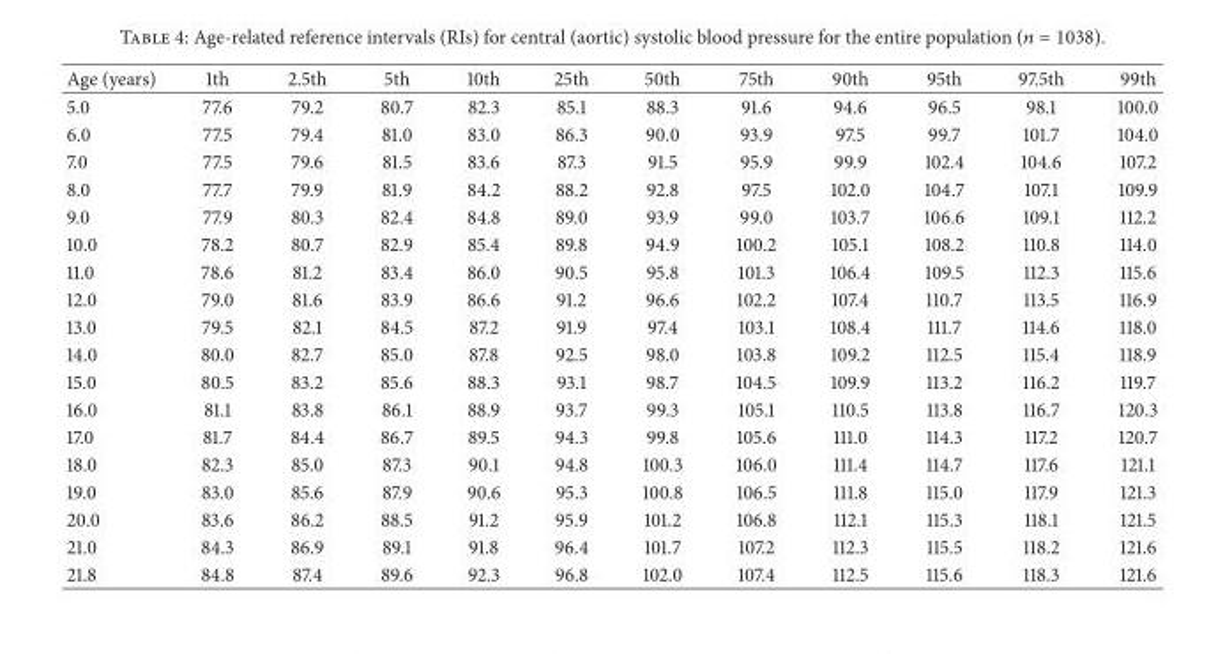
<table><thead><tr><td>Age (years)</td><td>1th</td><td>2.5th</td><td>5th</td><td>10th</td><td>25th</td><td>50th</td><td>75th</td><td>90th</td><td>95th</td><td>97.5th</td><td>99th</td></tr></thead><tbody><tr><td>5.0</td><td>77.6</td><td>79.2</td><td>80.7</td><td>82.3</td><td>85.1</td><td>88.3</td><td>91.6</td><td>94.6</td><td>96.5</td><td>98.1</td><td>100.0</td></tr><tr><td>6.0</td><td>77.5</td><td>79.4</td><td>81.0</td><td>83.0</td><td>86.3</td><td>90.0</td><td>93.9</td><td>97.5</td><td>99.7</td><td>101.7</td><td>104.0</td></tr><tr><td>7.0</td><td>77.5</td><td>79.6</td><td>81.5</td><td>83.6</td><td>87.3</td><td>91.5</td><td>95.9</td><td>99.9</td><td>102.4</td><td>104.6</td><td>107.2</td></tr><tr><td>8.0</td><td>77.7</td><td>79.9</td><td>81.9</td><td>84.2</td><td>88.2</td><td>92.8</td><td>97.5</td><td>102.0</td><td>104.7</td><td>107.1</td><td>109.9</td></tr><tr><td>9.0</td><td>77.9</td><td>80.3</td><td>82.4</td><td>84.8</td><td>89.0</td><td>93.9</td><td>99.0</td><td>103.7</td><td>106.6</td><td>109.1</td><td>112.2</td></tr><tr><td>10.0</td><td>78.2</td><td>80.7</td><td>82.9</td><td>85.4</td><td>89.8</td><td>94.9</td><td>100.2</td><td>105.1</td><td>108.2</td><td>110.8</td><td>114.0</td></tr><tr><td>11.0</td><td>78.6</td><td>81.2</td><td>83.4</td><td>86.0</td><td>90.5</td><td>95.8</td><td>101.3</td><td>106.4</td><td>109.5</td><td>112.3</td><td>115.6</td></tr><tr><td>12.0</td><td>79.0</td><td>81.6</td><td>83.9</td><td>86.6</td><td>91.2</td><td>96.6</td><td>102.2</td><td>107.4</td><td>110.7</td><td>113.5</td><td>116.9</td></tr><tr><td>13.0</td><td>79.5</td><td>82.1</td><td>84.5</td><td>87.2</td><td>91.9</td><td>97.4</td><td>103.1</td><td>108.4</td><td>111.7</td><td>114.6</td><td>118.0</td></tr><tr><td>14.0</td><td>80.0</td><td>82.7</td><td>85.0</td><td>87.8</td><td>92.5</td><td>98.0</td><td>103.8</td><td>109.2</td><td>112.5</td><td>115.4</td><td>118.9</td></tr><tr><td>15.0</td><td>80.5</td><td>83.2</td><td>85.6</td><td>88.3</td><td>93.1</td><td>98.7</td><td>104.5</td><td>109.9</td><td>113.2</td><td>116.2</td><td>119.7</td></tr><tr><td>16.0</td><td>81.1</td><td>83.8</td><td>86.1</td><td>88.9</td><td>93.7</td><td>99.3</td><td>105.1</td><td>110.5</td><td>113.8</td><td>116.7</td><td>120.3</td></tr><tr><td>17.0</td><td>81.7</td><td>84.4</td><td>86.7</td><td>89.5</td><td>94.3</td><td>99.8</td><td>105.6</td><td>111.0</td><td>114.3</td><td>117.2</td><td>120.7</td></tr><tr><td>18.0</td><td>82.3</td><td>85.0</td><td>87.3</td><td>90.1</td><td>94.8</td><td>100.3</td><td>106.0</td><td>111.4</td><td>114.7</td><td>117.6</td><td>121.1</td></tr><tr><td>19.0</td><td>83.0</td><td>85.6</td><td>87.9</td><td>90.6</td><td>95.3</td><td>100.8</td><td>106.5</td><td>111.8</td><td>115.0</td><td>117.9</td><td>121.3</td></tr><tr><td>20.0</td><td>83.6</td><td>86.2</td><td>88.5</td><td>91.2</td><td>95.9</td><td>101.2</td><td>106.8</td><td>112.1</td><td>115.3</td><td>118.1</td><td>121.5</td></tr><tr><td>21.0</td><td>84.3</td><td>86.9</td><td>89.1</td><td>91.8</td><td>96.4</td><td>101.7</td><td>107.2</td><td>112.3</td><td>115.5</td><td>118.2</td><td>121.6</td></tr><tr><td>21.8</td><td>84.8</td><td>87.4</td><td>89.6</td><td>92.3</td><td>96.8</td><td>102.0</td><td>107.4</td><td>112.5</td><td>115.6</td><td>118.3</td><td>121.6</td></tr></tbody></table>